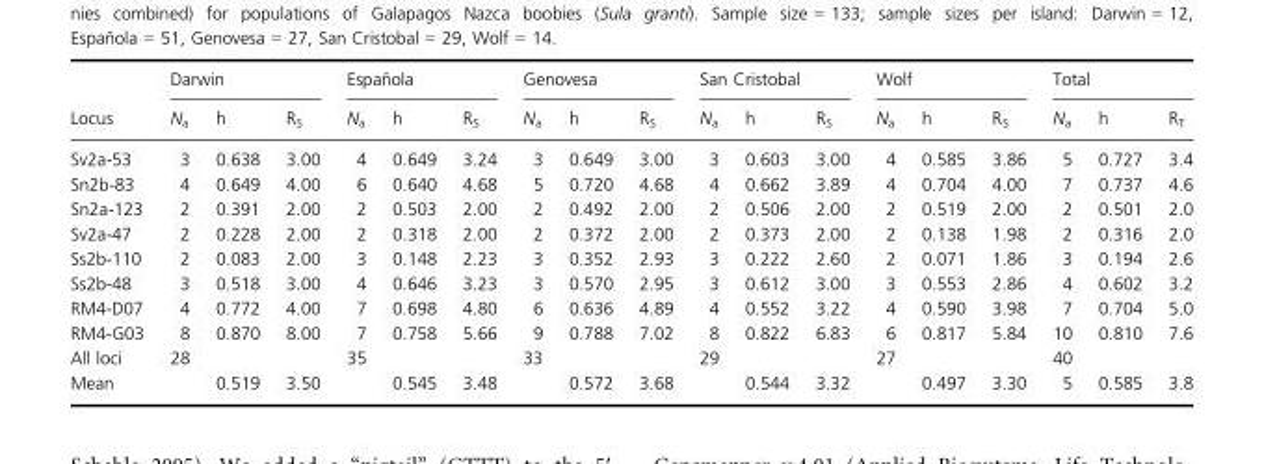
<table><thead><tr><td rowspan="2">Locus</td><td colspan="3">Darwin</td><td colspan="3">Espan˜ ola</td><td colspan="3">Genovesa</td><td colspan="3">San Cristobal</td><td colspan="3">Wolf</td><td colspan="3">Total</td></tr><tr><td>N<sub>a</sub></td><td>h</td><td>R<sub>S</sub></td><td>N<sub>a</sub></td><td>h</td><td>R<sub>S</sub></td><td>N<sub>a</sub></td><td>h</td><td>R<sub>S</sub></td><td>N<sub>a</sub></td><td>h</td><td>R<sub>S</sub></td><td>N<sub>a</sub></td><td>h</td><td>R<sub>S</sub></td><td>N<sub>a</sub></td><td>h</td><td>R<sub>T</sub></td></tr></thead><tbody><tr><td>Sv2a-53</td><td>3</td><td>0.638</td><td>3.00</td><td>4</td><td>0.649</td><td>3.24</td><td>3</td><td>0.649</td><td>3.00</td><td>3</td><td>0.603</td><td>3.00</td><td>4</td><td>0.585</td><td>3.86</td><td>5</td><td>0.727</td><td>3.4</td></tr><tr><td>Sn2b-83</td><td>4</td><td>0.649</td><td>4.00</td><td>6</td><td>0.640</td><td>4.68</td><td>5</td><td>0.720</td><td>4.68</td><td>4</td><td>0.662</td><td>3.89</td><td>4</td><td>0.704</td><td>4.00</td><td>7</td><td>0.737</td><td>4.6</td></tr><tr><td>Sn2a-123</td><td>2</td><td>0.391</td><td>2.00</td><td>2</td><td>0.503</td><td>2.00</td><td>2</td><td>0.492</td><td>2.00</td><td>2</td><td>0.506</td><td>2.00</td><td>2</td><td>0.519</td><td>2.00</td><td>2</td><td>0.501</td><td>2.0</td></tr><tr><td>Sv2a-47</td><td>2</td><td>0.228</td><td>2.00</td><td>2</td><td>0.318</td><td>2.00</td><td>2</td><td>0.372</td><td>2.00</td><td>2</td><td>0.373</td><td>2.00</td><td>2</td><td>0.138</td><td>1.98</td><td>2</td><td>0.316</td><td>2.0</td></tr><tr><td>Ss2b-110</td><td>2</td><td>0.083</td><td>2.00</td><td>3</td><td>0.148</td><td>2.23</td><td>3</td><td>0.352</td><td>2.93</td><td>3</td><td>0.222</td><td>2.60</td><td>2</td><td>0.071</td><td>1.86</td><td>3</td><td>0.194</td><td>2.6</td></tr><tr><td>Ss2b-48</td><td>3</td><td>0.518</td><td>3.00</td><td>4</td><td>0.646</td><td>3.23</td><td>3</td><td>0.570</td><td>2.95</td><td>3</td><td>0.612</td><td>3.00</td><td>3</td><td>0.553</td><td>2.86</td><td>4</td><td>0.602</td><td>3.2</td></tr><tr><td>RM4-D07</td><td>4</td><td>0.772</td><td>4.00</td><td>7</td><td>0.698</td><td>4.80</td><td>6</td><td>0.636</td><td>4.89</td><td>4</td><td>0.552</td><td>3.22</td><td>4</td><td>0.590</td><td>3.98</td><td>7</td><td>0.704</td><td>5.0</td></tr><tr><td>RM4-G03</td><td>8</td><td>0.870</td><td>8.00</td><td>7</td><td>0.758</td><td>5.66</td><td>9</td><td>0.788</td><td>7.02</td><td>8</td><td>0.822</td><td>6.83</td><td>6</td><td>0.817</td><td>5.84</td><td>10</td><td>0.810</td><td>7.6</td></tr><tr><td>All loci</td><td>28</td><td></td><td></td><td>35</td><td></td><td></td><td>33</td><td></td><td></td><td>29</td><td></td><td></td><td>27</td><td></td><td></td><td>40</td><td></td><td></td></tr><tr><td>Mean</td><td></td><td>0.519</td><td>3.50</td><td></td><td>0.545</td><td>3.48</td><td></td><td>0.572</td><td>3.68</td><td></td><td>0.544</td><td>3.32</td><td></td><td>0.497</td><td>3.30</td><td>5</td><td>0.585</td><td>3.8</td></tr></tbody></table>